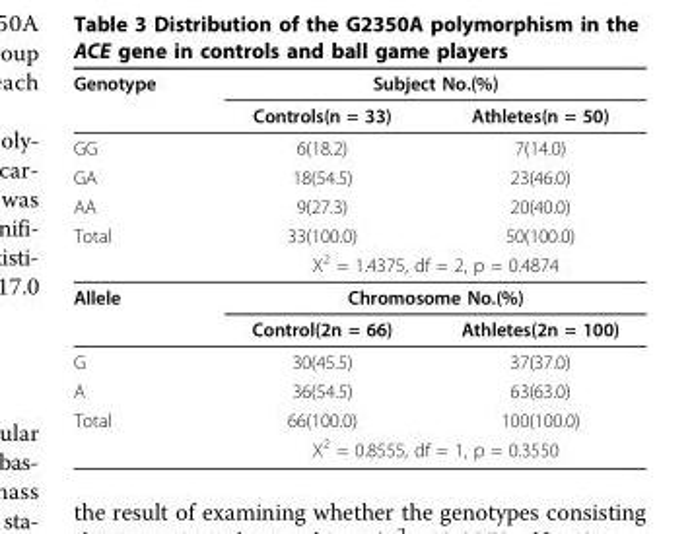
<table><thead><tr><td rowspan="2">Genotype</td><td colspan="2">Subject No.(%)</td></tr><tr><td>Controls(n = 33)</td><td>Athletes(n = 50)</td></tr></thead><tbody><tr><td>GG</td><td>6(18.2)</td><td>7(14.0)</td></tr><tr><td>GA</td><td>18(54.5)</td><td>23(46.0)</td></tr><tr><td>AA</td><td>9(27.3)</td><td>20(40.0)</td></tr><tr><td rowspan="2">Total</td><td>33(100.0)</td><td>50(100.0)</td></tr><tr><td colspan="2">Χ<sup>2</sup> = 1.4375, df = 2, p = 0.4874</td></tr><tr><td rowspan="2">Allele</td><td colspan="2">Chromosome No.(%)</td></tr><tr><td>Control(2n = 66)</td><td>Athletes(2n = 100)</td></tr><tr><td>G</td><td>30(45.5)</td><td>37(37.0)</td></tr><tr><td>A</td><td>36(54.5)</td><td>63(63.0)</td></tr><tr><td rowspan="2">Total</td><td>66(100.0)</td><td>100(100.0)</td></tr><tr><td colspan="2">Χ<sup>2</sup> = 0.8555, df = 1, p = 0.3550</td></tr></tbody></table>